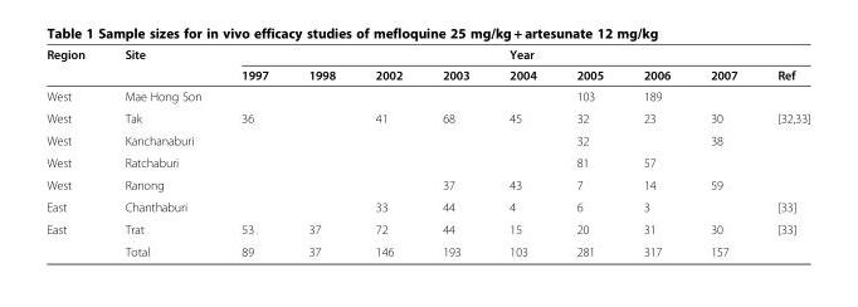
<table><thead><tr><td rowspan="2">Region</td><td rowspan="2">Site</td><td rowspan="2">1997</td><td rowspan="2">1998</td><td rowspan="2">2002</td><td rowspan="2">2003</td><td rowspan="2">Year 2004</td><td rowspan="2">2005</td><td rowspan="2">2006</td><td rowspan="2">2007</td><td rowspan="2">Ref</td></tr><tr></tr></thead><tbody><tr><td>West</td><td>Mae Hong Son</td><td></td><td></td><td></td><td></td><td></td><td>103</td><td>189</td><td></td><td></td></tr><tr><td>West</td><td>Tak</td><td>36</td><td></td><td>41</td><td>68</td><td>45</td><td>32</td><td>23</td><td>30</td><td>[32,33]</td></tr><tr><td>West</td><td>Kanchanaburi</td><td></td><td></td><td></td><td></td><td></td><td>32</td><td></td><td>38</td><td></td></tr><tr><td>West</td><td>Ratchaburi</td><td></td><td></td><td></td><td></td><td></td><td>81</td><td>57</td><td></td><td></td></tr><tr><td>West</td><td>Ranong</td><td></td><td></td><td></td><td>37</td><td>43</td><td>7</td><td>14</td><td>59</td><td></td></tr><tr><td>East</td><td>Chanthaburi</td><td></td><td></td><td>33</td><td>44</td><td>4</td><td>6</td><td>3</td><td></td><td>[33]</td></tr><tr><td rowspan="2">East</td><td>Trat</td><td>53</td><td>37</td><td>72</td><td>44</td><td>15</td><td>20</td><td>31</td><td>30</td><td>[33]</td></tr><tr><td>Total</td><td>89</td><td>37</td><td>146</td><td>193</td><td>103</td><td>281</td><td>317</td><td>157</td><td></td></tr></tbody></table>